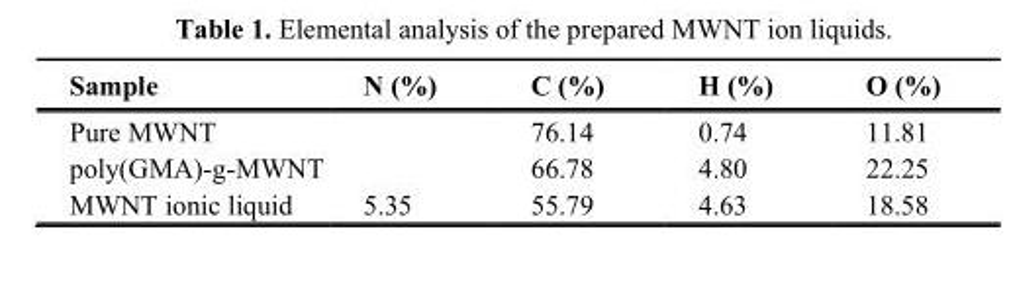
<table><thead><tr><td>Sample</td><td>N (%)</td><td>C (%)</td><td>H (%)</td><td>O (%)</td></tr></thead><tbody><tr><td>Pure MWNT</td><td></td><td>76.14</td><td>0.74</td><td>11.81</td></tr><tr><td>poly(GMA)-g-MWNT</td><td></td><td>66.78</td><td>4.80</td><td>22.25</td></tr><tr><td>MWNT ionic liquid</td><td>5.35</td><td>55.79</td><td>4.63</td><td>18.58</td></tr></tbody></table>